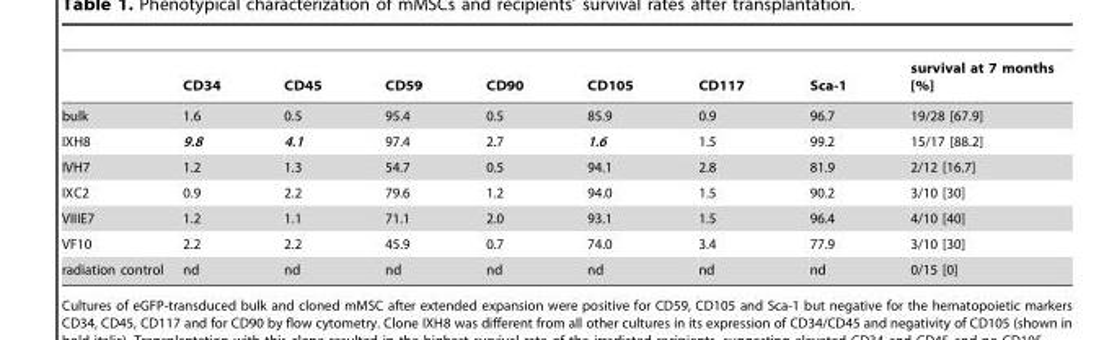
<table><thead><tr><td></td><td>CD34</td><td>CD45</td><td>CD59</td><td>CD90</td><td>CD105</td><td>CD117</td><td>Sca-1</td><td>survival at 7 months [%]</td></tr></thead><tbody><tr><td>bulk</td><td>1.6</td><td>0.5</td><td>95.4</td><td>0.5</td><td>85.9</td><td>0.9</td><td>96.7</td><td>19/28 [67.9]</td></tr><tr><td>IXH8</td><td>9.8</td><td>4.1</td><td>97.4</td><td>2.7</td><td>1.6</td><td>1.5</td><td>99.2</td><td>15/17 [88.2]</td></tr><tr><td>IVH7</td><td>1.2</td><td>1.3</td><td>54.7</td><td>0.5</td><td>94.1</td><td>2.8</td><td>81.9</td><td>2/12 [16.7]</td></tr><tr><td>IXC2</td><td>0.9</td><td>2.2</td><td>79.6</td><td>1.2</td><td>94.0</td><td>1.5</td><td>90.2</td><td>3/10 [30]</td></tr><tr><td>VIIIE7</td><td>1.2</td><td>1.1</td><td>71.1</td><td>2.0</td><td>93.1</td><td>1.5</td><td>96.4</td><td>4/10 [40]</td></tr><tr><td>VF10</td><td>2.2</td><td>2.2</td><td>45.9</td><td>0.7</td><td>74.0</td><td>3.4</td><td>77.9</td><td>3/10 [30]</td></tr><tr><td>radiation control</td><td>nd</td><td>nd</td><td>nd</td><td>nd</td><td>nd</td><td>nd</td><td>nd</td><td>0/15 [0]</td></tr></tbody></table>